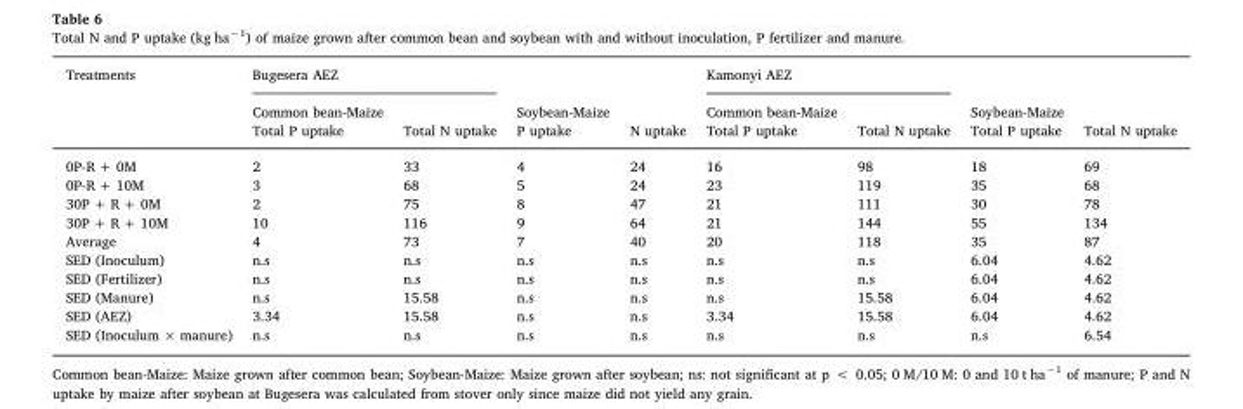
<table><thead><tr><td rowspan="3">Treatments</td><td colspan="2">Bugesera AEZ</td><td rowspan="3">Soybean-Maize P uptake</td><td rowspan="3">N uptake</td><td colspan="2">Kamonyi AEZ</td><td rowspan="3">Soybean-Maize Total P uptake</td><td rowspan="3">Total N uptake</td></tr><tr><td rowspan="2">Common bean-Maize Total P uptake</td><td rowspan="2">Total N uptake</td><td rowspan="2">Common bean-Maize Total P uptake</td><td rowspan="2">Total N uptake</td></tr><tr></tr></thead><tbody><tr><td>0P-R + 0M</td><td>2</td><td>33</td><td>4</td><td>24</td><td>16</td><td>98</td><td>18</td><td>69</td></tr><tr><td>0P-R + 10M</td><td>3</td><td>68</td><td>5</td><td>24</td><td>23</td><td>119</td><td>35</td><td>68</td></tr><tr><td>30P + R + 0M</td><td>2</td><td>75</td><td>8</td><td>47</td><td>21</td><td>111</td><td>30</td><td>78</td></tr><tr><td>30P + R + 10M</td><td>10</td><td>116</td><td>9</td><td>64</td><td>21</td><td>144</td><td>55</td><td>134</td></tr><tr><td>Average</td><td>4</td><td>73</td><td>7</td><td>40</td><td>20</td><td>118</td><td>35</td><td>87</td></tr><tr><td>SED (Inoculum)</td><td>n.s</td><td>n.s</td><td>n.s</td><td>n.s</td><td>n.s</td><td>n.s</td><td>6.04</td><td>4.62</td></tr><tr><td>SED (Fertilizer)</td><td>n.s</td><td>n.s</td><td>n.s</td><td>n.s</td><td>n.s</td><td>n.s</td><td>6.04</td><td>4.62</td></tr><tr><td>SED (Manure)</td><td>n.s</td><td>15.58</td><td>n.s</td><td>n.s</td><td>n.s</td><td>15.58</td><td>6.04</td><td>4.62</td></tr><tr><td>SED (AEZ)</td><td>3.34</td><td>15.58</td><td>n.s</td><td>n.s</td><td>3.34</td><td>15.58</td><td>6.04</td><td>4.62</td></tr><tr><td>SED (Inoculum × manure)</td><td>n.s</td><td>n.s</td><td>n.s</td><td>n.s</td><td>n.s</td><td>n.s</td><td>n.s</td><td>6.54</td></tr></tbody></table>